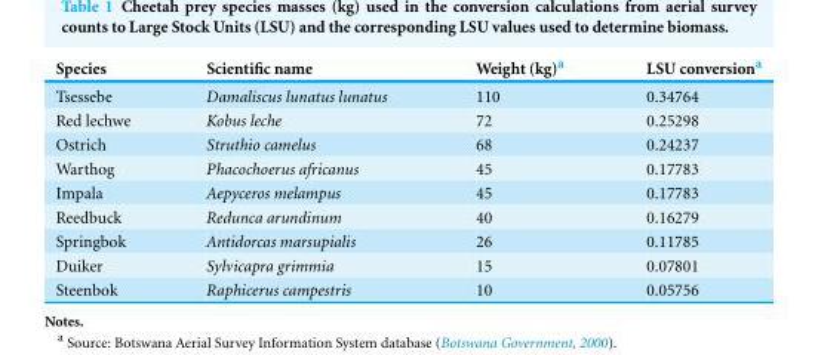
<table><thead><tr><td>Species</td><td>Scientific name</td><td>Weight (kg)<sup>a</sup></td><td>LSU conversion<sup>a</sup></td></tr></thead><tbody><tr><td>Tsessebe</td><td>Damaliscus lunatus lunatus</td><td>110</td><td>0.34764</td></tr><tr><td>Red lechwe</td><td>Kobus leche</td><td>72</td><td>0.25298</td></tr><tr><td>Ostrich</td><td>Struthio camelus</td><td>68</td><td>0.24237</td></tr><tr><td>Warthog</td><td>Phacochoerus africanus</td><td>45</td><td>0.17783</td></tr><tr><td>Impala</td><td>Aepyceros melampus</td><td>45</td><td>0.17783</td></tr><tr><td>Reedbuck</td><td>Redunca arundinum</td><td>40</td><td>0.16279</td></tr><tr><td>Springbok</td><td>Antidorcas marsupialis</td><td>26</td><td>0.11785</td></tr><tr><td>Duiker</td><td>Sylvicapra grimmia</td><td>15</td><td>0.07801</td></tr><tr><td>Steenbok</td><td>Raphicerus campestris</td><td>10</td><td>0.05756</td></tr></tbody></table>